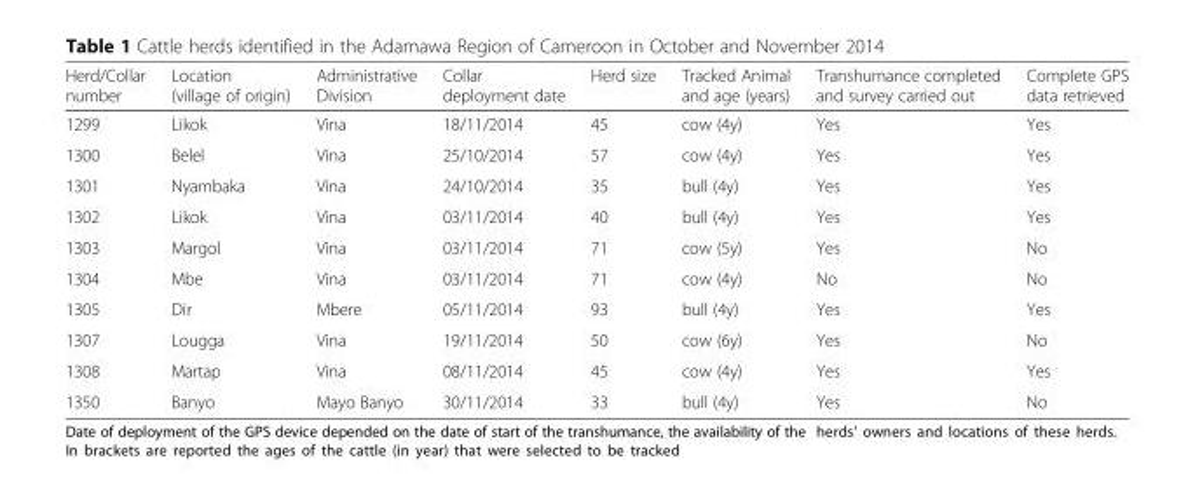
<table><thead><tr><td>Herd/Collar number</td><td>Location (village of origin)</td><td>Administrative Division</td><td>Collar deployment date</td><td>Herd size</td><td>Tracked Animal and age (years)</td><td>Transhumance completed and survey carried out</td><td>Complete GPS data retrieved</td></tr></thead><tbody><tr><td>1299</td><td>Likok</td><td>Vina</td><td>18/11/2014</td><td>45</td><td>cow (4y)</td><td>Yes</td><td>Yes</td></tr><tr><td>1300</td><td>Belel</td><td>Vina</td><td>25/10/2014</td><td>57</td><td>cow (4y)</td><td>Yes</td><td>Yes</td></tr><tr><td>1301</td><td>Nyambaka</td><td>Vina</td><td>24/10/2014</td><td>35</td><td>bull (4y)</td><td>Yes</td><td>Yes</td></tr><tr><td>1302</td><td>Likok</td><td>Vina</td><td>03/11/2014</td><td>40</td><td>bull (4y)</td><td>Yes</td><td>Yes</td></tr><tr><td>1303</td><td>Margol</td><td>Vina</td><td>03/11/2014</td><td>71</td><td>cow (5y)</td><td>Yes</td><td>No</td></tr><tr><td>1304</td><td>Mbe</td><td>Vina</td><td>03/11/2014</td><td>71</td><td>cow (4y)</td><td>No</td><td>No</td></tr><tr><td>1305</td><td>Dir</td><td>Mbere</td><td>05/11/2014</td><td>93</td><td>bull (4y)</td><td>Yes</td><td>Yes</td></tr><tr><td>1307</td><td>Lougga</td><td>Vina</td><td>19/11/2014</td><td>50</td><td>cow (6y)</td><td>Yes</td><td>No</td></tr><tr><td>1308</td><td>Martap</td><td>Vina</td><td>08/11/2014</td><td>45</td><td>cow (4y)</td><td>Yes</td><td>Yes</td></tr><tr><td>1350</td><td>Banyo</td><td>Mayo Banyo</td><td>30/11/2014</td><td>33</td><td>bull (4y)</td><td>Yes</td><td>No</td></tr></tbody></table>